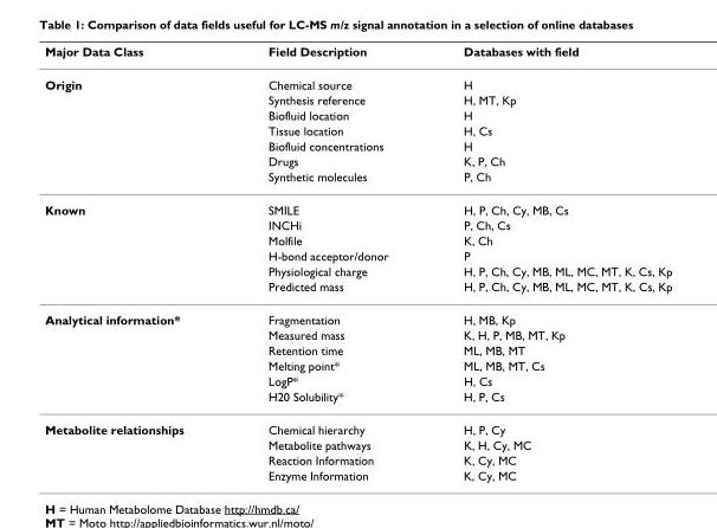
<table><thead><tr><td>Major Data Class</td><td>Field Description</td><td>Databases with field</td></tr></thead><tbody><tr><td rowspan="7">Origin</td><td>Chemical source</td><td>H</td></tr><tr><td>Synthesis reference</td><td>H, MT, Kp</td></tr><tr><td>Biofluid location</td><td>H</td></tr><tr><td>Tissue location</td><td>H, Cs</td></tr><tr><td>Biofluid concentrations</td><td>H</td></tr><tr><td>Drugs</td><td>K, P, Ch</td></tr><tr><td>Synthetic molecules</td><td>P, Ch</td></tr><tr><td rowspan="6">Known</td><td>SMILE</td><td>H, P, Ch, Cy, MB, Cs</td></tr><tr><td>INCHi</td><td>P, Ch, Cs</td></tr><tr><td>Molfile</td><td>K, Ch</td></tr><tr><td>H-bond acceptor/donor</td><td>P</td></tr><tr><td>Physiological charge</td><td>H, P, Ch, Cy, MB, ML, MC, MT, K, Cs, Kp</td></tr><tr><td>Predicted mass</td><td>H, P, Ch, Cy, MB, ML, MC, MT, K, Cs, Kp</td></tr><tr><td rowspan="6">Analytical information*</td><td>Fragmentation</td><td>H, MB, Kp</td></tr><tr><td>Measured mass</td><td>K, H, P, MB, MT, Kp</td></tr><tr><td>Retention time</td><td>ML, MB, MT</td></tr><tr><td>Melting point*</td><td>ML, MB, MT, Cs</td></tr><tr><td>LogP*</td><td>H, Cs</td></tr><tr><td>H20 Solubility*</td><td>H, P, Cs</td></tr><tr><td rowspan="4">Metabolite relationships</td><td>Chemical hierarchy</td><td>H, P, Cy</td></tr><tr><td>Metabolite pathways</td><td>K, H, Cy, MC</td></tr><tr><td>Reaction Information</td><td>K, Cy, MC</td></tr><tr><td>Enzyme Information</td><td>K, Cy, MC</td></tr></tbody></table>